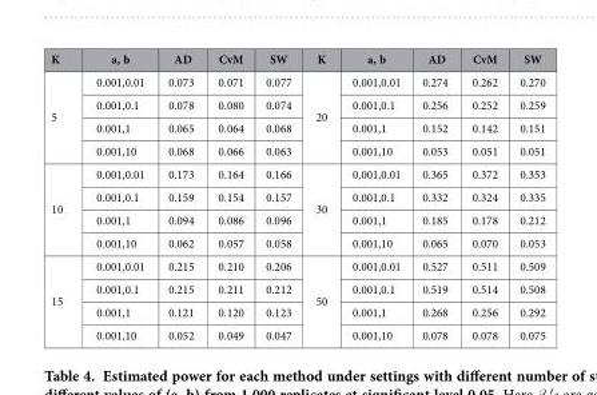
<table><thead><tr><td>K</td><td>a, b</td><td>AD</td><td>CvM</td><td>SW</td><td>K</td><td>a, b</td><td>AD</td><td>CvM</td><td>SW</td></tr></thead><tbody><tr><td rowspan="4">5</td><td>0.001,0.01</td><td>0.073</td><td>0.071</td><td>0.077</td><td rowspan="4">20</td><td>0.001,0.01</td><td>0.274</td><td>0.262</td><td>0.270</td></tr><tr><td>0.001,0.1</td><td>0.078</td><td>0.080</td><td>0.074</td><td>0.001,0.1</td><td>0.256</td><td>0.252</td><td>0.259</td></tr><tr><td>0.001,1</td><td>0.065</td><td>0.064</td><td>0.068</td><td>0.001,1</td><td>0.152</td><td>0.142</td><td>0.151</td></tr><tr><td>0.001,10</td><td>0.068</td><td>0.066</td><td>0.063</td><td>0.001,10</td><td>0.053</td><td>0.051</td><td>0.051</td></tr><tr><td rowspan="4">10</td><td>0.001,0.01</td><td>0.173</td><td>0.164</td><td>0.166</td><td rowspan="4">30</td><td>0.001,0.01</td><td>0.365</td><td>0.372</td><td>0.353</td></tr><tr><td>0.001,0.1</td><td>0.159</td><td>0.154</td><td>0.157</td><td>0.001,0.1</td><td>0.332</td><td>0.324</td><td>0.335</td></tr><tr><td>0.001,1</td><td>0.094</td><td>0.086</td><td>0.096</td><td>0.001,1</td><td>0.185</td><td>0.178</td><td>0.212</td></tr><tr><td>0.001,10</td><td>0.062</td><td>0.057</td><td>0.058</td><td>0.001,10</td><td>0.065</td><td>0.070</td><td>0.053</td></tr><tr><td rowspan="4">15</td><td>0.001,0.01</td><td>0.215</td><td>0.210</td><td>0.206</td><td rowspan="4">50</td><td>0.001,0.01</td><td>0.527</td><td>0.511</td><td>0.509</td></tr><tr><td>0.001,0.1</td><td>0.215</td><td>0.211</td><td>0.212</td><td>0.001,0.1</td><td>0.519</td><td>0.514</td><td>0.508</td></tr><tr><td>0.001,1</td><td>0.121</td><td>0.120</td><td>0.123</td><td>0.001,1</td><td>0.268</td><td>0.256</td><td>0.292</td></tr><tr><td>0.001,10</td><td>0.052</td><td>0.049</td><td>0.047</td><td>0.001,10</td><td>0.078</td><td>0.078</td><td>0.075</td></tr></tbody></table>